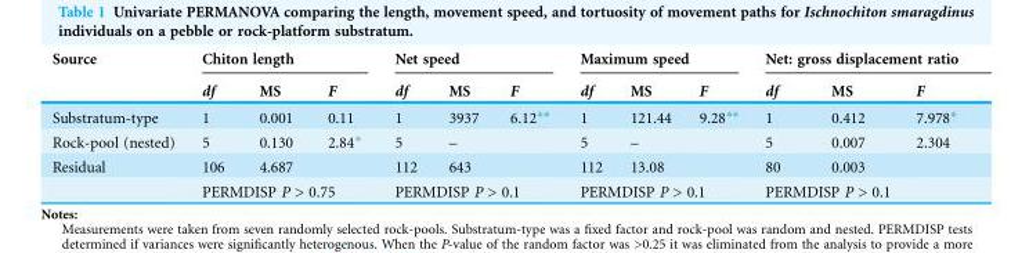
<table><thead><tr><td rowspan="2">Source</td><td colspan="3">Chiton length</td><td colspan="3">Net speed</td><td colspan="3">Maximum speed</td><td colspan="3">Net: gross displacement ratio</td></tr><tr><td>df</td><td>MS</td><td>F</td><td>df</td><td>MS</td><td>F</td><td>df</td><td>MS</td><td>F</td><td>df</td><td>MS</td><td>F</td></tr></thead><tbody><tr><td>Substratum-type</td><td>1</td><td>0.001</td><td>0.11</td><td>1</td><td>3937</td><td>6.12**</td><td>1</td><td>121.44</td><td>9.28**</td><td>1</td><td>0.412</td><td>7.978*</td></tr><tr><td>Rock-pool (nested)</td><td>5</td><td>0.130</td><td>2.84*</td><td>5</td><td colspan="2">–</td><td>5</td><td colspan="2">–</td><td>5</td><td>0.007</td><td>2.304</td></tr><tr><td rowspan="2">Residual</td><td>106</td><td>4.687</td><td></td><td>112</td><td>643</td><td></td><td>112</td><td>13.08</td><td></td><td>80</td><td>0.003</td><td></td></tr><tr><td colspan="3">PERMDISP P &gt; 0.75</td><td colspan="3">PERMDISP P &gt; 0.1</td><td colspan="3">PERMDISP P &gt; 0.1</td><td colspan="3">PERMDISP P &gt; 0.1</td></tr></tbody></table>